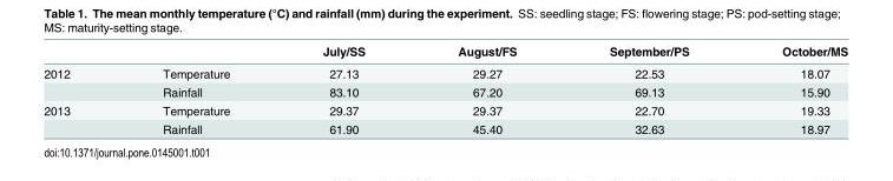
<table><thead><tr><td></td><td></td><td>July/SS</td><td>August/FS</td><td>September/PS</td><td>October/MS</td></tr></thead><tbody><tr><td rowspan="2">2012</td><td>Temperature</td><td>27.13</td><td>29.27</td><td>22.53</td><td>18.07</td></tr><tr><td>Rainfall</td><td>83.10</td><td>67.20</td><td>69.13</td><td>15.90</td></tr><tr><td rowspan="2">2013</td><td>Temperature</td><td>29.37</td><td>29.37</td><td>22.70</td><td>19.33</td></tr><tr><td>Rainfall</td><td>61.90</td><td>45.40</td><td>32.63</td><td>18.97</td></tr></tbody></table>